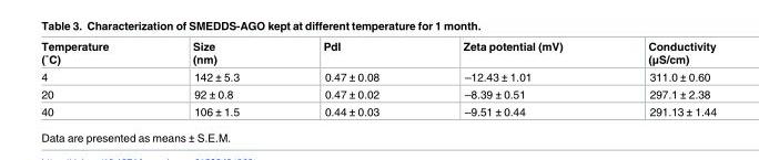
<table><thead><tr><td>Temperature (˚C)</td><td>Size (nm)</td><td>PdI</td><td>Zeta potential (mV)</td><td>Conductivity (μS/cm)</td></tr></thead><tbody><tr><td>4</td><td>142 ± 5.3</td><td>0.47 ± 0.08</td><td>–12.43 ± 1.01</td><td>311.0 ± 0.60</td></tr><tr><td>20</td><td>92 ± 0.8</td><td>0.47 ± 0.02</td><td>–8.39 ± 0.51</td><td>297.1 ± 2.38</td></tr><tr><td>40</td><td>106 ± 1.5</td><td>0.44 ± 0.03</td><td>–9.51 ± 0.44</td><td>291.13 ± 1.44</td></tr></tbody></table>